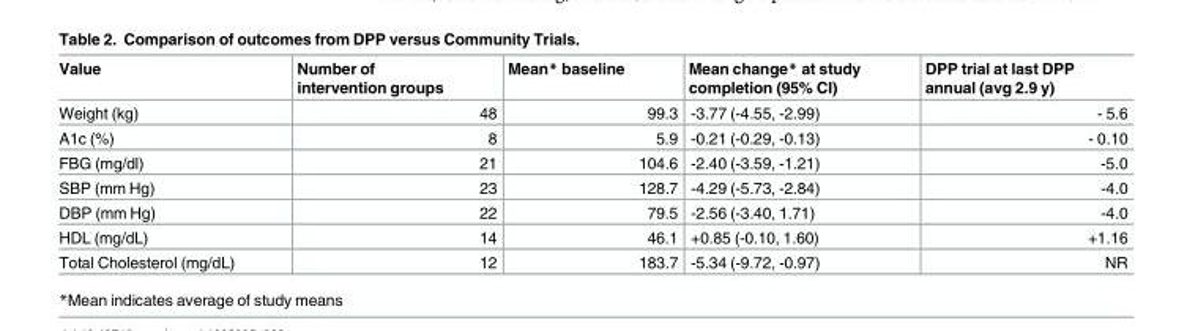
<table><thead><tr><td>Value</td><td>Number of intervention groups</td><td>Mean* baseline</td><td>Mean change* at study completion (95% CI)</td><td>DPP trial at last DPP annual (avg 2.9 y)</td></tr></thead><tbody><tr><td>Weight (kg)</td><td>48</td><td>99.3</td><td>-3.77 (-4.55, -2.99)</td><td>- 5.6</td></tr><tr><td>A1c (%)</td><td>8</td><td>5.9</td><td>-0.21 (-0.29, -0.13)</td><td>- 0.10</td></tr><tr><td>FBG (mg/dl)</td><td>21</td><td>104.6</td><td>-2.40 (-3.59, -1.21)</td><td>-5.0</td></tr><tr><td>SBP (mm Hg)</td><td>23</td><td>128.7</td><td>-4.29 (-5.73, -2.84)</td><td>-4.0</td></tr><tr><td>DBP (mm Hg)</td><td>22</td><td>79.5</td><td>-2.56 (-3.40, 1.71)</td><td>-4.0</td></tr><tr><td>HDL (mg/dL)</td><td>14</td><td>46.1</td><td>+0.85 (-0.10, 1.60)</td><td>+1.16</td></tr><tr><td>Total Cholesterol (mg/dL)</td><td>12</td><td>183.7</td><td>-5.34 (-9.72, -0.97)</td><td>NR</td></tr></tbody></table>